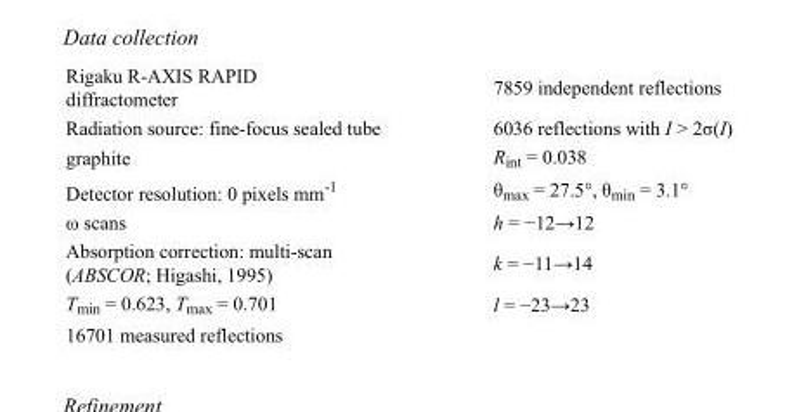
<table><tbody><tr><td>Rigaku R-AXIS RAPID diffractometer</td><td>7859 independent reflections</td></tr><tr><td>Radiation source: fine-focus sealed tube</td><td>6036 reflections with I &gt; 2σ(I)</td></tr><tr><td>graphite</td><td>R<sub>int</sub> = 0.038</td></tr><tr><td>Detector resolution: 0 pixels mm<sup>-1</sup></td><td>θ<sub>max</sub> = 27.5°, θ<sub>min</sub> = 3.1°</td></tr><tr><td>ω scans</td><td>h = −12→12</td></tr><tr><td>Absorption correction: multi-scan (ABSCOR; Higashi, 1995)</td><td>k = −11→14</td></tr><tr><td>T<sub>min</sub> = 0.623, T<sub>max</sub> = 0.701</td><td>l = −23→23</td></tr><tr><td>16701 measured reflections</td><td></td></tr></tbody></table>